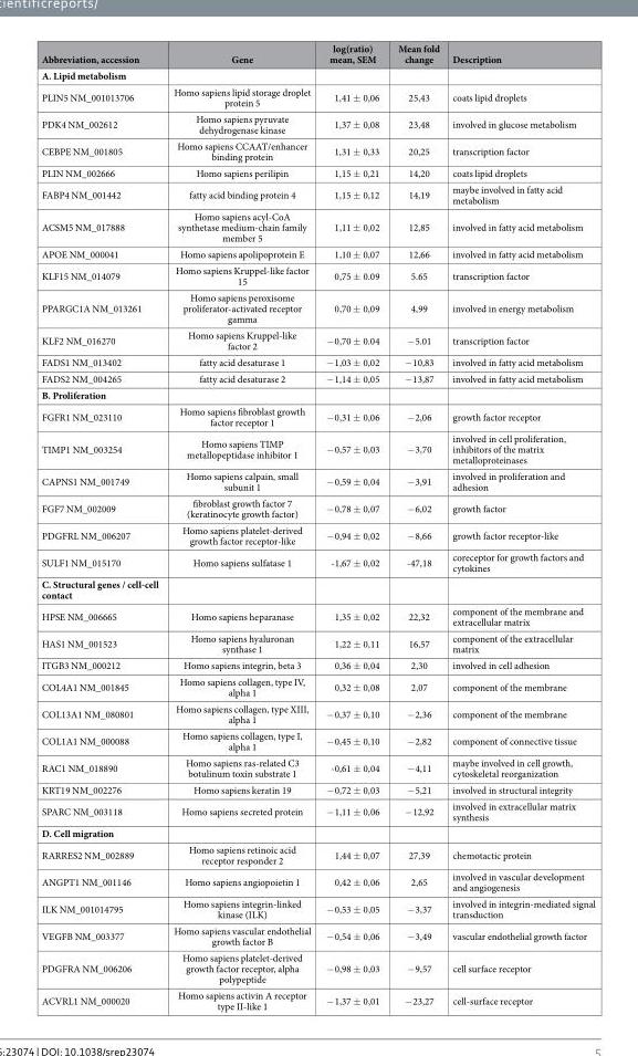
<table><thead><tr><td>Abbreviation, accession</td><td>Gene</td><td>log(ratio) mean, SEM</td><td>Mean fold change</td><td>Description</td></tr></thead><tbody><tr><td colspan="5">A. Lipid metabolism</td></tr><tr><td>PLIN5 NM_001013706</td><td>Homo sapiens lipid storage droplet protein 5</td><td>1,41 ± 0,06</td><td>25,43</td><td>coats lipid droplets</td></tr><tr><td>PDK4 NM_002612</td><td>Homo sapiens pyruvate dehydrogenase kinase</td><td>1,37 ± 0,08</td><td>23,48</td><td>involved in glucose metabolism</td></tr><tr><td>CEBPE NM_001805</td><td>Homo sapiens CCAAT/enhancer binding protein</td><td>1,31 ± 0,33</td><td>20,25</td><td>transcription factor</td></tr><tr><td>PLIN NM_002666</td><td>Homo sapiens perilipin</td><td>1,15 ± 0,21</td><td>14,20</td><td>coats lipid droplets</td></tr><tr><td>FABP4 NM_001442</td><td>fatty acid binding protein 4</td><td>1,15 ± 0,12</td><td>14,19</td><td>maybe involved in fatty acid metabolism</td></tr><tr><td>ACSM5 NM_017888</td><td>Homo sapiens acyl-CoA synthetase medium-chain family member 5</td><td>1,11 ± 0,02</td><td>12,85</td><td>involved in fatty acid metabolism</td></tr><tr><td>APOE NM_000041</td><td>Homo sapiens apolipoprotein E</td><td>1,10 ± 0,07</td><td>12,66</td><td>involved in fatty acid metabolism</td></tr><tr><td>KLF15 NM_014079</td><td>Homo sapiens Kruppel-like factor 15</td><td>0,75 ± 0.09</td><td>5.65</td><td>transcription factor</td></tr><tr><td>PPARGC1A NM_013261</td><td>Homo sapiens peroxisome proliferator-activated receptor gamma</td><td>0,70 ± 0,09</td><td>4,99</td><td>involved in energy metabolism</td></tr><tr><td>KLF2 NM_016270</td><td>Homo sapiens Kruppel-like factor 2</td><td>− 0,70 ± 0.04</td><td>− 5.01</td><td>transcription factor</td></tr><tr><td>FADS1 NM_013402</td><td>fatty acid desaturase 1</td><td>− 1,03 ± 0,02</td><td>− 10,83</td><td>involved in fatty acid metabolism</td></tr><tr><td>FADS2 NM_004265</td><td>fatty acid desaturase 2</td><td>− 1,14 ± 0,05</td><td>− 13,87</td><td>involved in fatty acid metabolism</td></tr><tr><td colspan="5">B. Proliferation</td></tr><tr><td>FGFR1 NM_023110</td><td>Homo sapiens fibroblast growth factor receptor 1</td><td>− 0,31 ± 0,06</td><td>− 2,06</td><td>growth factor receptor</td></tr><tr><td>TIMP1 NM_003254</td><td>Homo sapiens TIMP metallopeptidase inhibitor 1</td><td>− 0,57 ± 0,03</td><td>− 3,70</td><td>involved in cell proliferation, inhibitors of the matrix metalloproteinases</td></tr><tr><td>CAPNS1 NM_001749</td><td>Homo sapiens calpain, small subunit 1</td><td>− 0,59 ± 0,04</td><td>− 3,91</td><td>involved in proliferation and adhesion</td></tr><tr><td>FGF7 NM_002009</td><td>fibroblast growth factor 7 (keratinocyte growth factor)</td><td>− 0,78 ± 0,07</td><td>− 6,02</td><td>growth factor</td></tr><tr><td>PDGFRL NM_006207</td><td>Homo sapiens platelet-derived growth factor receptor-like</td><td>− 0,94 ± 0,02</td><td>− 8,66</td><td>growth factor receptor-like</td></tr><tr><td>SULF1 NM_015170</td><td>Homo sapiens sulfatase 1</td><td>-1,67 ± 0,02</td><td>-47,18</td><td>coreceptor for growth factors and cytokines</td></tr><tr><td colspan="5">C. Structural genes / cell-cell contact</td></tr><tr><td>HPSE NM_006665</td><td>Homo sapiens heparanase</td><td>1,35 ± 0,02</td><td>22,32</td><td>component of the membrane and extracellular matrix</td></tr><tr><td>HAS1 NM_001523</td><td>Homo sapiens hyaluronan synthase 1</td><td>1,22 ± 0,11</td><td>16,57</td><td>component of the extracellular matrix</td></tr><tr><td>ITGB3 NM_000212</td><td>Homo sapiens integrin, beta 3</td><td>0,36 ± 0,04</td><td>2,30</td><td>involved in cell adhesion</td></tr><tr><td>COL4A1 NM_001845</td><td>Homo sapiens collagen, type IV, alpha 1</td><td>0,32 ± 0,08</td><td>2,07</td><td>component of the membrane</td></tr><tr><td>COL13A1 NM_080801</td><td>Homo sapiens collagen, type XIII, alpha 1</td><td>− 0,37 ± 0,10</td><td>− 2,36</td><td>component of the membrane</td></tr><tr><td>COL1A1 NM_000088</td><td>Homo sapiens collagen, type I, alpha 1</td><td>− 0,45 ± 0,10</td><td>− 2,82</td><td>component of connective tissue</td></tr><tr><td>RAC1 NM_018890</td><td>Homo sapiens ras-related C3 botulinum toxin substrate 1</td><td>-0,61 ± 0,04</td><td>− 4,11</td><td>maybe involved in cell growth, cytoskeletal reorganization</td></tr><tr><td>KRT19 NM_002276</td><td>Homo sapiens keratin 19</td><td>− 0,72 ± 0,03</td><td>− 5,21</td><td>involved in structural integrity</td></tr><tr><td>SPARC NM_003118</td><td>Homo sapiens secreted protein</td><td>− 1,11 ± 0,06</td><td>− 12,92</td><td>involved in extracellular matrix synthesis</td></tr><tr><td colspan="5">D. Cell migration</td></tr><tr><td>RARRES2 NM_002889</td><td>Homo sapiens retinoic acid receptor responder 2</td><td>1,44 ± 0,07</td><td>27,39</td><td>chemotactic protein</td></tr><tr><td>ANGPT1 NM_001146</td><td>Homo sapiens angiopoietin 1</td><td>0,42 ± 0,06</td><td>2,65</td><td>involved in vascular development and angiogenesis</td></tr><tr><td>ILK NM_001014795</td><td>Homo sapiens integrin-linked kinase (ILK)</td><td>− 0,53 ± 0,05</td><td>− 3,37</td><td>involved in integrin-mediated signal transduction</td></tr><tr><td>VEGFB NM_003377</td><td>Homo sapiens vascular endothelial growth factor B</td><td>− 0,54 ± 0,06</td><td>− 3,49</td><td>vascular endothelial growth factor</td></tr><tr><td>PDGFRA NM_006206</td><td>Homo sapiens platelet-derived growth factor receptor, alpha polypeptide</td><td>− 0,98 ± 0,03</td><td>− 9,57</td><td>cell surface receptor</td></tr><tr><td>ACVRL1 NM_000020</td><td>Homo sapiens activin A receptor type II-like 1</td><td>− 1,37 ± 0,01</td><td>− 23,27</td><td>cell-surface receptor</td></tr></tbody></table>